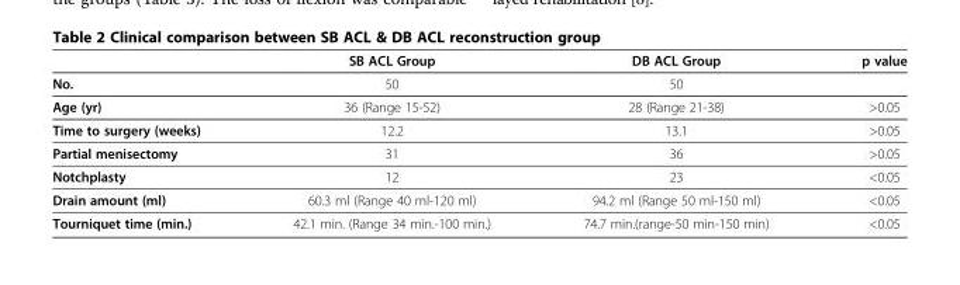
<table><thead><tr><td></td><td>SB ACL Group</td><td>DB ACL Group</td><td>p value</td></tr></thead><tbody><tr><td>No.</td><td>50</td><td>50</td><td></td></tr><tr><td>Age (yr)</td><td>36 (Range 15-52)</td><td>28 (Range 21-38)</td><td>&gt;0.05</td></tr><tr><td>Time to surgery (weeks)</td><td>12.2</td><td>13.1</td><td>&gt;0.05</td></tr><tr><td>Partial menisectomy</td><td>31</td><td>36</td><td>&gt;0.05</td></tr><tr><td>Notchplasty</td><td>12</td><td>23</td><td>&lt;0.05</td></tr><tr><td>Drain amount (ml)</td><td>60.3 ml (Range 40 ml-120 ml)</td><td>94.2 ml (Range 50 ml-150 ml)</td><td>&lt;0.05</td></tr><tr><td>Tourniquet time (min.)</td><td>42.1 min. (Range 34 min.-100 min.)</td><td>74.7 min.(range-50 min-150 min)</td><td>&lt;0.05</td></tr></tbody></table>